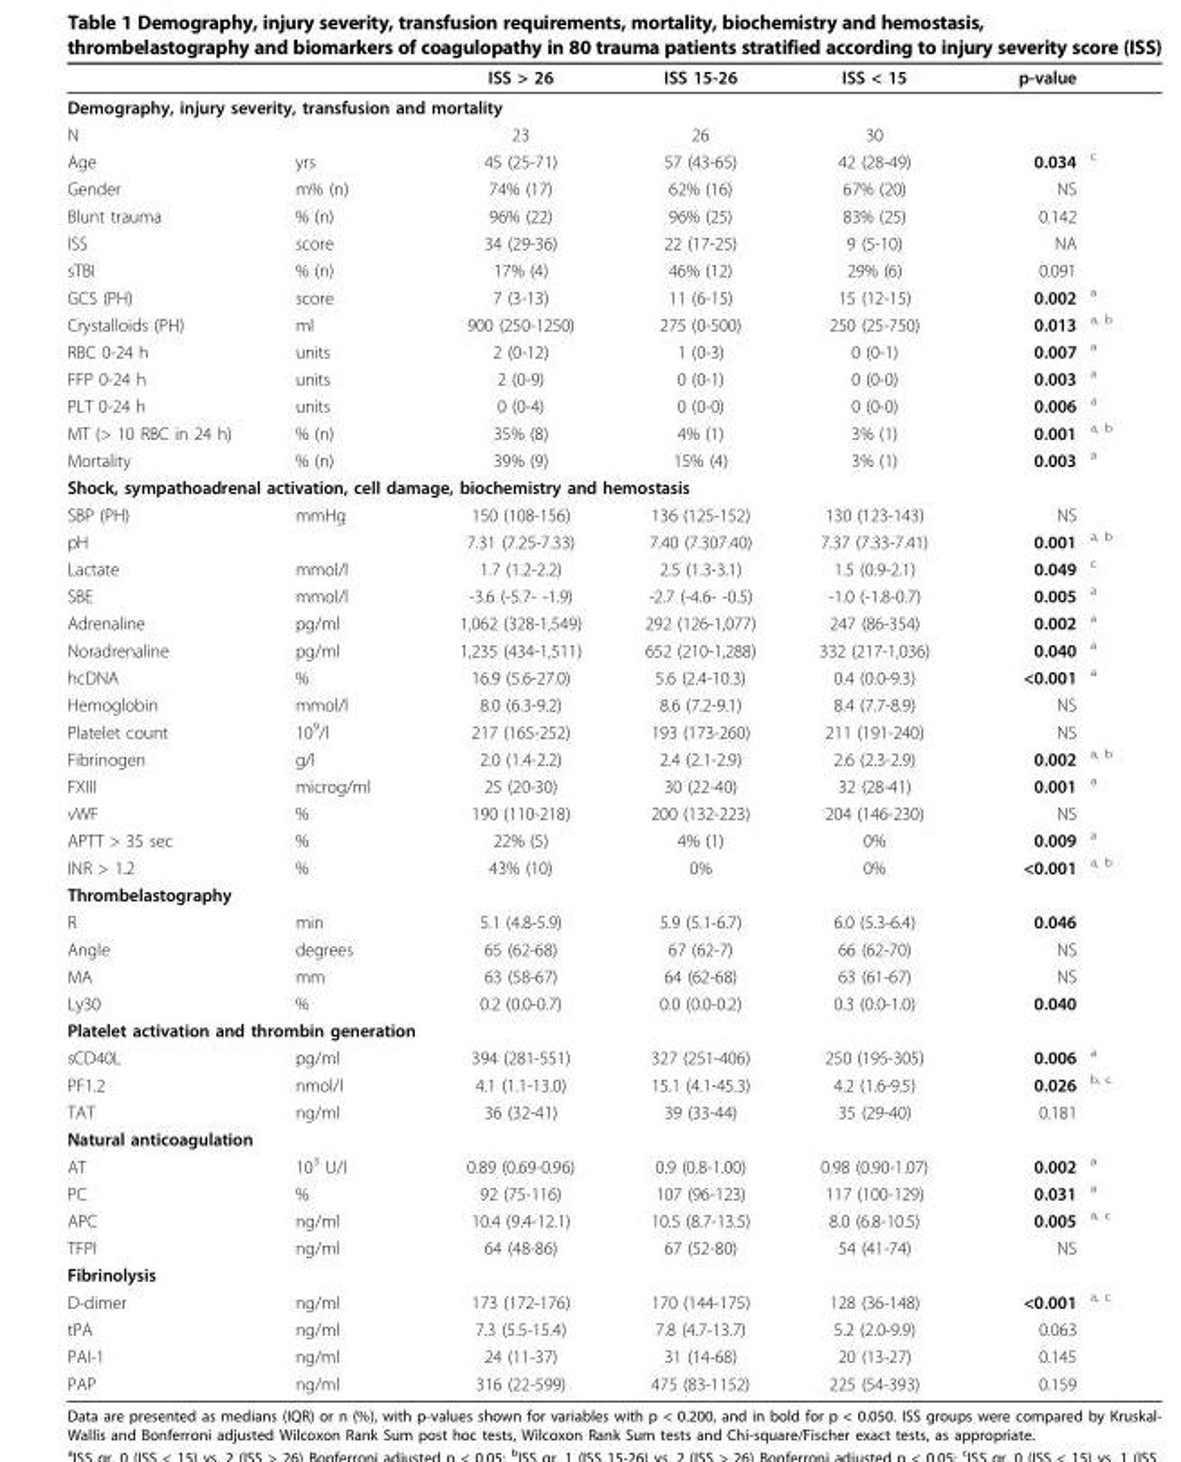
<table><thead><tr><td></td><td></td><td>ISS &gt; 26</td><td>ISS 15-26</td><td>ISS &lt; 15</td><td>p-value</td><td></td></tr></thead><tbody><tr><td colspan="7">Demography, injury severity, transfusion and mortality</td></tr><tr><td>N</td><td></td><td>23</td><td>26</td><td>30</td><td></td><td></td></tr><tr><td>Age</td><td>yrs</td><td>45 (25-71)</td><td>57 (43-65)</td><td>42 (28-49)</td><td>0.034</td><td><sup>c</sup></td></tr><tr><td>Gender</td><td>m% (n)</td><td>74% (17)</td><td>62% (16)</td><td>67% (20)</td><td>NS</td><td></td></tr><tr><td>Blunt trauma</td><td>% (n)</td><td>96% (22)</td><td>96% (25)</td><td>83% (25)</td><td>0.142</td><td></td></tr><tr><td>ISS</td><td>score</td><td>34 (29-36)</td><td>22 (17-25)</td><td>9 (5-10)</td><td>NA</td><td></td></tr><tr><td>sTBI</td><td>% (n)</td><td>17% (4)</td><td>46% (12)</td><td>29% (6)</td><td>0.091</td><td></td></tr><tr><td>GCS (PH)</td><td>score</td><td>7 (3-13)</td><td>11 (6-15)</td><td>15 (12-15)</td><td>0.002</td><td><sup>a</sup></td></tr><tr><td>Crystalloids (PH)</td><td>ml</td><td>900 (250-1250)</td><td>275 (0-500)</td><td>250 (25-750)</td><td>0.013</td><td><sup>a, b</sup></td></tr><tr><td>RBC 0-24 h</td><td>units</td><td>2 (0-12)</td><td>1 (0-3)</td><td>0 (0-1)</td><td>0.007</td><td><sup>a</sup></td></tr><tr><td>FFP 0-24 h</td><td>units</td><td>2 (0-9)</td><td>0 (0-1)</td><td>0 (0-0)</td><td>0.003</td><td><sup>a</sup></td></tr><tr><td>PLT 0-24 h</td><td>units</td><td>0 (0-4)</td><td>0 (0-0)</td><td>0 (0-0)</td><td>0.006</td><td><sup>a</sup></td></tr><tr><td>MT (&gt; 10 RBC in 24 h)</td><td>% (n)</td><td>35% (8)</td><td>4% (1)</td><td>3% (1)</td><td>0.001</td><td><sup>a, b</sup></td></tr><tr><td>Mortality</td><td>% (n)</td><td>39% (9)</td><td>15% (4)</td><td>3% (1)</td><td>0.003</td><td><sup>a</sup></td></tr><tr><td colspan="7">Shock, sympathoadrenal activation, cell damage, biochemistry and hemostasis</td></tr><tr><td>SBP (PH)</td><td>mmHg</td><td>150 (108-156)</td><td>136 (125-152)</td><td>130 (123-143)</td><td>NS</td><td></td></tr><tr><td>pH</td><td></td><td>7.31 (7.25-7.33)</td><td>7.40 (7.307.40)</td><td>7.37 (7.33-7.41)</td><td>0.001</td><td><sup>a, b</sup></td></tr><tr><td>Lactate</td><td>mmol/l</td><td>1.7 (1.2-2.2)</td><td>2.5 (1.3-3.1)</td><td>1.5 (0.9-2.1)</td><td>0.049</td><td><sup>c</sup></td></tr><tr><td>SBE</td><td>mmol/l</td><td>-3.6 (-5.7- -1.9)</td><td>-2.7 (-4.6- -0.5)</td><td>-1.0 (-1.8-0.7)</td><td>0.005</td><td><sup>a</sup></td></tr><tr><td>Adrenaline</td><td>pg/ml</td><td>1,062 (328-1,549)</td><td>292 (126-1,077)</td><td>247 (86-354)</td><td>0.002</td><td><sup>a</sup></td></tr><tr><td>Noradrenaline</td><td>pg/ml</td><td>1,235 (434-1,511)</td><td>652 (210-1,288)</td><td>332 (217-1,036)</td><td>0.040</td><td><sup>a</sup></td></tr><tr><td>hcDNA</td><td>%</td><td>16.9 (5.6-27.0)</td><td>5.6 (2.4-10.3)</td><td>0.4 (0.0-9.3)</td><td>&lt;0.001</td><td><sup>a</sup></td></tr><tr><td>Hemoglobin</td><td>mmol/l</td><td>8.0 (6.3-9.2)</td><td>8.6 (7.2-9.1)</td><td>8.4 (7.7-8.9)</td><td>NS</td><td></td></tr><tr><td>Platelet count</td><td>10<sup>9</sup>/l</td><td>217 (165-252)</td><td>193 (173-260)</td><td>211 (191-240)</td><td>NS</td><td></td></tr><tr><td>Fibrinogen</td><td>g/l</td><td>2.0 (1.4-2.2)</td><td>2.4 (2.1-2.9)</td><td>2.6 (2.3-2.9)</td><td>0.002</td><td><sup>a, b</sup></td></tr><tr><td>FXIII</td><td>microg/ml</td><td>25 (20-30)</td><td>30 (22-40)</td><td>32 (28-41)</td><td>0.001</td><td><sup>a</sup></td></tr><tr><td>vWF</td><td>%</td><td>190 (110-218)</td><td>200 (132-223)</td><td>204 (146-230)</td><td>NS</td><td></td></tr><tr><td>APTT &gt; 35 sec</td><td>%</td><td>22% (5)</td><td>4% (1)</td><td>0%</td><td>0.009</td><td><sup>a</sup></td></tr><tr><td>INR &gt; 1.2</td><td>%</td><td>43% (10)</td><td>0%</td><td>0%</td><td>&lt;0.001</td><td><sup>a, b</sup></td></tr><tr><td colspan="7">Thrombelastography</td></tr><tr><td>R</td><td>min</td><td>5.1 (4.8-5.9)</td><td>5.9 (5.1-6.7)</td><td>6.0 (5.3-6.4)</td><td>0.046</td><td></td></tr><tr><td>Angle</td><td>degrees</td><td>65 (62-68)</td><td>67 (62-7)</td><td>66 (62-70)</td><td>NS</td><td></td></tr><tr><td>MA</td><td>mm</td><td>63 (58-67)</td><td>64 (62-68)</td><td>63 (61-67)</td><td>NS</td><td></td></tr><tr><td>Ly30</td><td>%</td><td>0.2 (0.0-0.7)</td><td>0.0 (0.0-0.2)</td><td>0.3 (0.0-1.0)</td><td>0.040</td><td></td></tr><tr><td colspan="7">Platelet activation and thrombin generation</td></tr><tr><td>sCD40L</td><td>pg/ml</td><td>394 (281-551)</td><td>327 (251-406)</td><td>250 (195-305)</td><td>0.006</td><td><sup>a</sup></td></tr><tr><td>PF1.2</td><td>nmol/l</td><td>4.1 (1.1-13.0)</td><td>15.1 (4.1-45.3)</td><td>4.2 (1.6-9.5)</td><td>0.026</td><td><sup>b, c</sup></td></tr><tr><td>TAT</td><td>ng/ml</td><td>36 (32-41)</td><td>39 (33-44)</td><td>35 (29-40)</td><td>0.181</td><td></td></tr><tr><td colspan="7">Natural anticoagulation</td></tr><tr><td>AT</td><td>10<sup>3</sup> U/l</td><td>0.89 (0.69-0.96)</td><td>0.9 (0.8-1.00)</td><td>0.98 (0.90-1.07)</td><td>0.002</td><td><sup>a</sup></td></tr><tr><td>PC</td><td>%</td><td>92 (75-116)</td><td>107 (96-123)</td><td>117 (100-129)</td><td>0.031</td><td><sup>a</sup></td></tr><tr><td>APC</td><td>ng/ml</td><td>10.4 (9.4-12.1)</td><td>10.5 (8.7-13.5)</td><td>8.0 (6.8-10.5)</td><td>0.005</td><td><sup>a, c</sup></td></tr><tr><td>TFPI</td><td>ng/ml</td><td>64 (48-86)</td><td>67 (52-80)</td><td>54 (41-74)</td><td>NS</td><td></td></tr><tr><td colspan="7">Fibrinolysis</td></tr><tr><td>D-dimer</td><td>ng/ml</td><td>173 (172-176)</td><td>170 (144-175)</td><td>128 (36-148)</td><td>&lt;0.001</td><td><sup>a, c</sup></td></tr><tr><td>tPA</td><td>ng/ml</td><td>7.3 (5.5-15.4)</td><td>7.8 (4.7-13.7)</td><td>5.2 (2.0-9.9)</td><td>0.063</td><td></td></tr><tr><td>PAI-1</td><td>ng/ml</td><td>24 (11-37)</td><td>31 (14-68)</td><td>20 (13-27)</td><td>0.145</td><td></td></tr><tr><td>PAP</td><td>ng/ml</td><td>316 (22-599)</td><td>475 (83-1152)</td><td>225 (54-393)</td><td>0.159</td><td></td></tr></tbody></table>